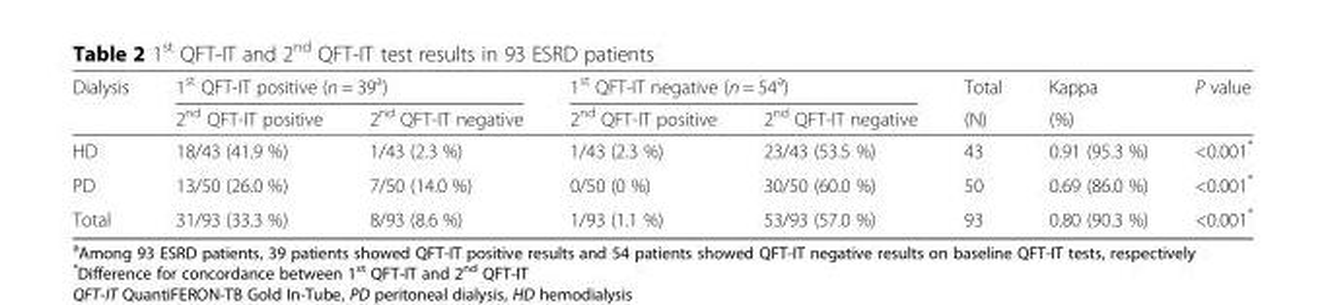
<table><thead><tr><td rowspan="2">Dialysis</td><td colspan="2">1<sup>st</sup> QFT-IT positive (n = 39<sup>a</sup>)</td><td colspan="2">1<sup>st</sup> QFT-IT negative (n = 54<sup>a</sup>)</td><td rowspan="2">Total (N)</td><td rowspan="2">Kappa (%)</td><td rowspan="2">P value</td></tr><tr><td>2<sup>nd</sup> QFT-IT positive</td><td>2<sup>nd</sup> QFT-IT negative</td><td>2<sup>nd</sup> QFT-IT positive</td><td>2<sup>nd</sup> QFT-IT negative</td></tr></thead><tbody><tr><td>HD</td><td>18/43 (41.9 %)</td><td>1/43 (2.3 %)</td><td>1/43 (2.3 %)</td><td>23/43 (53.5 %)</td><td>43</td><td>0.91 (95.3 %)</td><td>&lt;0.001*</td></tr><tr><td>PD</td><td>13/50 (26.0 %)</td><td>7/50 (14.0 %)</td><td>0/50 (0 %)</td><td>30/50 (60.0 %)</td><td>50</td><td>0.69 (86.0 %)</td><td>&lt;0.001*</td></tr><tr><td>Total</td><td>31/93 (33.3 %)</td><td>8/93 (8.6 %)</td><td>1/93 (1.1 %)</td><td>53/93 (57.0 %)</td><td>93</td><td>0.80 (90.3 %)</td><td>&lt;0.001*</td></tr></tbody></table>